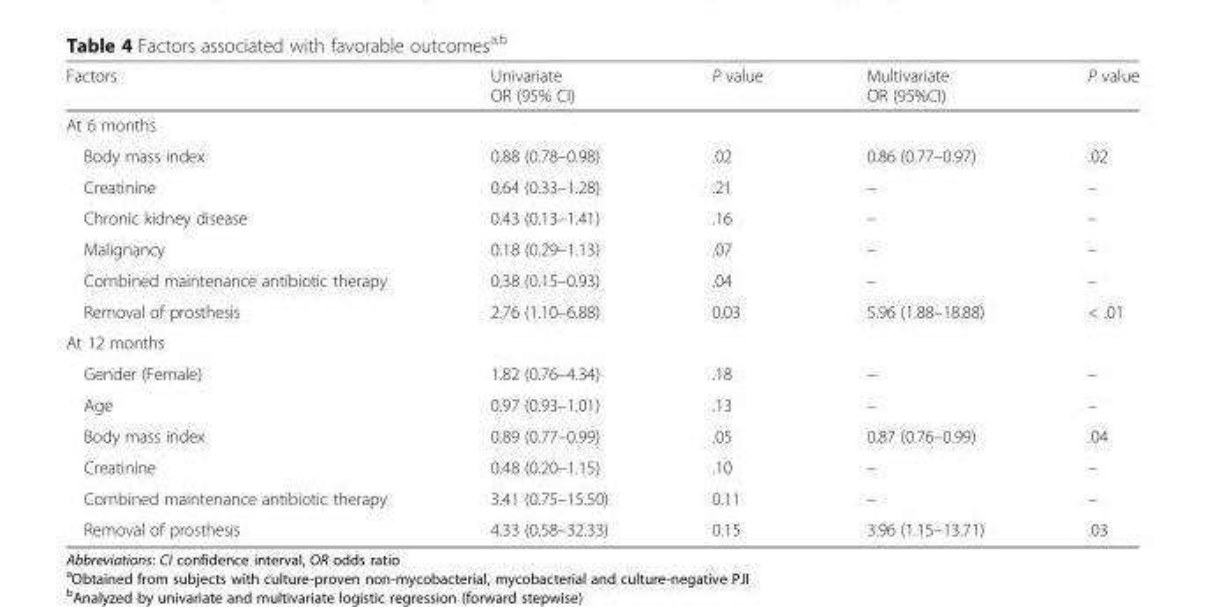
<table><thead><tr><td>Factors</td><td>Univariate OR (95% CI)</td><td>P value</td><td>Multivariate OR (95%CI)</td><td>P value</td></tr></thead><tbody><tr><td colspan="5">At 6 months</td></tr><tr><td>Body mass index</td><td>0.88 (0.78–0.98)</td><td>.02</td><td>0.86 (0.77–0.97)</td><td>.02</td></tr><tr><td>Creatinine</td><td>0.64 (0.33–1.28)</td><td>.21</td><td>–</td><td>–</td></tr><tr><td>Chronic kidney disease</td><td>0.43 (0.13–1.41)</td><td>.16</td><td>–</td><td>–</td></tr><tr><td>Malignancy</td><td>0.18 (0.29–1.13)</td><td>.07</td><td>–</td><td>–</td></tr><tr><td>Combined maintenance antibiotic therapy</td><td>0.38 (0.15–0.93)</td><td>.04</td><td>–</td><td>–</td></tr><tr><td>Removal of prosthesis</td><td>2.76 (1.10–6.88)</td><td>0.03</td><td>5.96 (1.88–18.88)</td><td>&lt; .01</td></tr><tr><td colspan="5">At 12 months</td></tr><tr><td>Gender (Female)</td><td>1.82 (0.76–4.34)</td><td>.18</td><td>–</td><td>–</td></tr><tr><td>Age</td><td>0.97 (0.93–1.01)</td><td>.13</td><td>–</td><td>–</td></tr><tr><td>Body mass index</td><td>0.89 (0.77–0.99)</td><td>.05</td><td>0.87 (0.76–0.99)</td><td>.04</td></tr><tr><td>Creatinine</td><td>0.48 (0.20–1.15)</td><td>.10</td><td>–</td><td>–</td></tr><tr><td>Combined maintenance antibiotic therapy</td><td>3.41 (0.75–15.50)</td><td>0.11</td><td>–</td><td>–</td></tr><tr><td>Removal of prosthesis</td><td>4.33 (0.58–32.33)</td><td>0.15</td><td>3.96 (1.15–13.71)</td><td>.03</td></tr></tbody></table>